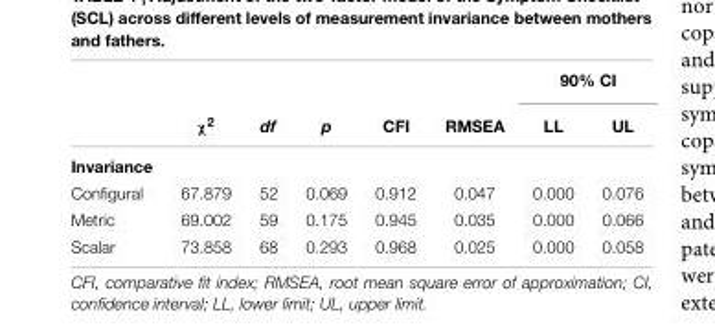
<table><thead><tr><td rowspan="2"></td><td rowspan="2">χ<sup>2</sup></td><td rowspan="2">df</td><td rowspan="2">p</td><td rowspan="2">CFI</td><td rowspan="2">RMSEA</td><td colspan="2">90% CI</td></tr><tr><td>LL</td><td>UL</td></tr></thead><tbody><tr><td colspan="8">Invariance</td></tr><tr><td>Configural</td><td>67.879</td><td>52</td><td>0.069</td><td>0.912</td><td>0.047</td><td>0.000</td><td>0.076</td></tr><tr><td>Metric</td><td>69.002</td><td>59</td><td>0.175</td><td>0.945</td><td>0.035</td><td>0.000</td><td>0.066</td></tr><tr><td>Scalar</td><td>73.858</td><td>68</td><td>0.293</td><td>0.968</td><td>0.025</td><td>0.000</td><td>0.058</td></tr></tbody></table>